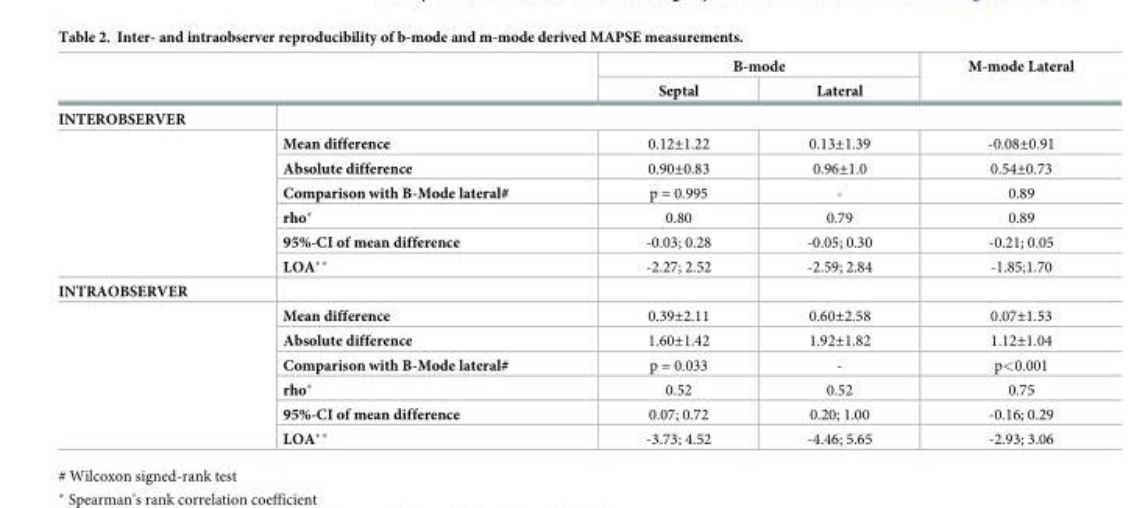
<table><thead><tr><td rowspan="2"></td><td rowspan="2"></td><td colspan="2">B-mode</td><td rowspan="2">M-mode Lateral</td></tr><tr><td>Septal</td><td>Lateral</td></tr></thead><tbody><tr><td colspan="5">INTEROBSERVER</td></tr><tr><td rowspan="6"></td><td>Mean difference</td><td>0.12±1.22</td><td>0.13±1.39</td><td>-0.08±0.91</td></tr><tr><td>Absolute difference</td><td>0.90±0.83</td><td>0.96±1.0</td><td>0.54±0.73</td></tr><tr><td>Comparison with B-Mode lateral#</td><td>p = 0.995</td><td>-</td><td>0.89</td></tr><tr><td>rho*</td><td>0.80</td><td>0.79</td><td>0.89</td></tr><tr><td>95%-CI of mean difference</td><td>-0.03; 0.28</td><td>-0.05; 0.30</td><td>-0.21; 0.05</td></tr><tr><td>LOA**</td><td>-2.27; 2.52</td><td>-2.59; 2.84</td><td>-1.85;1.70</td></tr><tr><td colspan="5">INTRAOBSERVER</td></tr><tr><td rowspan="6"></td><td>Mean difference</td><td>0.39±2.11</td><td>0.60±2.58</td><td>0.07±1.53</td></tr><tr><td>Absolute difference</td><td>1.60±1.42</td><td>1.92±1.82</td><td>1.12±1.04</td></tr><tr><td>Comparison with B-Mode lateral#</td><td>p = 0.033</td><td>-</td><td>p&lt;0.001</td></tr><tr><td>rho*</td><td>0.52</td><td>0.52</td><td>0.75</td></tr><tr><td>95%-CI of mean difference</td><td>0.07; 0.72</td><td>0.20; 1.00</td><td>-0.16; 0.29</td></tr><tr><td>LOA**</td><td>-3.73; 4.52</td><td>-4.46; 5.65</td><td>-2.93; 3.06</td></tr></tbody></table>